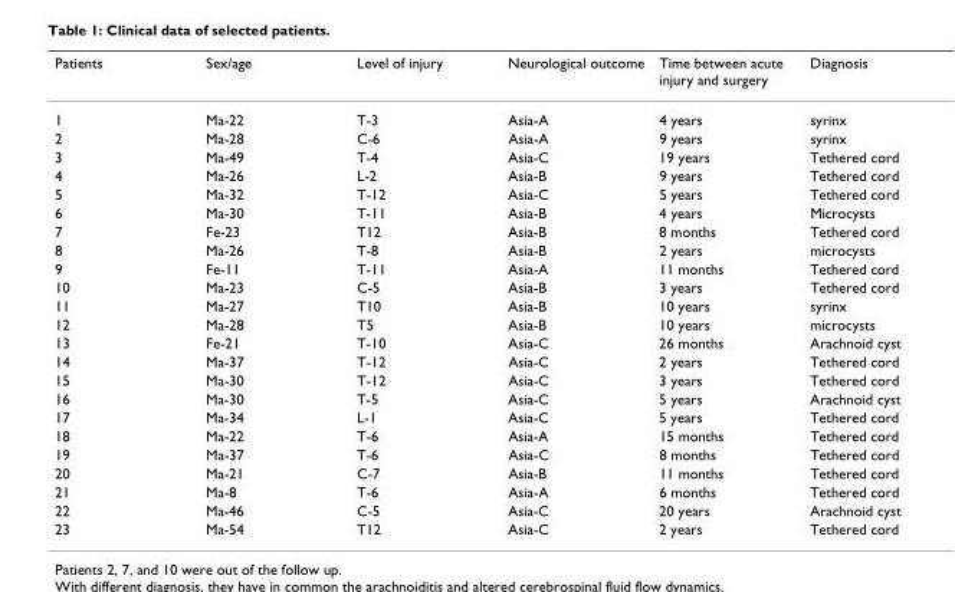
<table><thead><tr><td>Patients</td><td>Sex/age</td><td>Level of injury</td><td>Neurological outcome</td><td>Time between acute injury and surgery</td><td>Diagnosis</td></tr></thead><tbody><tr><td>1</td><td>Ma-22</td><td>T-3</td><td>Asia-A</td><td>4 years</td><td>syrinx</td></tr><tr><td>2</td><td>Ma-28</td><td>C-6</td><td>Asia-A</td><td>9 years</td><td>syrinx</td></tr><tr><td>3</td><td>Ma-49</td><td>T-4</td><td>Asia-C</td><td>19 years</td><td>Tethered cord</td></tr><tr><td>4</td><td>Ma-26</td><td>L-2</td><td>Asia-B</td><td>9 years</td><td>Tethered cord</td></tr><tr><td>5</td><td>Ma-32</td><td>T-12</td><td>Asia-C</td><td>5 years</td><td>Tethered cord</td></tr><tr><td>6</td><td>Ma-30</td><td>T-11</td><td>Asia-B</td><td>4 years</td><td>Microcysts</td></tr><tr><td>7</td><td>Fe-23</td><td>T12</td><td>Asia-B</td><td>8 months</td><td>Tethered cord</td></tr><tr><td>8</td><td>Ma-26</td><td>T-8</td><td>Asia-B</td><td>2 years</td><td>microcysts</td></tr><tr><td>9</td><td>Fe-11</td><td>T-11</td><td>Asia-A</td><td>11 months</td><td>Tethered cord</td></tr><tr><td>10</td><td>Ma-23</td><td>C-5</td><td>Asia-B</td><td>3 years</td><td>Tethered cord</td></tr><tr><td>11</td><td>Ma-27</td><td>T10</td><td>Asia-B</td><td>10 years</td><td>syrinx</td></tr><tr><td>12</td><td>Ma-28</td><td>T5</td><td>Asia-B</td><td>10 years</td><td>microcysts</td></tr><tr><td>13</td><td>Fe-21</td><td>T-10</td><td>Asia-C</td><td>26 months</td><td>Arachnoid cyst</td></tr><tr><td>14</td><td>Ma-37</td><td>T-12</td><td>Asia-C</td><td>2 years</td><td>Tethered cord</td></tr><tr><td>15</td><td>Ma-30</td><td>T-12</td><td>Asia-C</td><td>3 years</td><td>Tethered cord</td></tr><tr><td>16</td><td>Ma-30</td><td>T-5</td><td>Asia-C</td><td>5 years</td><td>Arachnoid cyst</td></tr><tr><td>17</td><td>Ma-34</td><td>L-1</td><td>Asia-C</td><td>5 years</td><td>Tethered cord</td></tr><tr><td>18</td><td>Ma-22</td><td>T-6</td><td>Asia-A</td><td>15 months</td><td>Tethered cord</td></tr><tr><td>19</td><td>Ma-37</td><td>T-6</td><td>Asia-C</td><td>8 months</td><td>Tethered cord</td></tr><tr><td>20</td><td>Ma-21</td><td>C-7</td><td>Asia-B</td><td>11 months</td><td>Tethered cord</td></tr><tr><td>21</td><td>Ma-8</td><td>T-6</td><td>Asia-A</td><td>6 months</td><td>Tethered cord</td></tr><tr><td>22</td><td>Ma-46</td><td>C-5</td><td>Asia-C</td><td>20 years</td><td>Arachnoid cyst</td></tr><tr><td>23</td><td>Ma-54</td><td>T12</td><td>Asia-C</td><td>2 years</td><td>Tethered cord</td></tr></tbody></table>